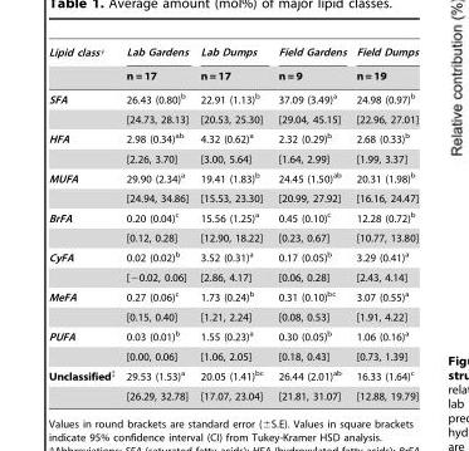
<table><thead><tr><td rowspan="2">Lipid class†</td><td rowspan="2">Lab Gardens n = 17</td><td rowspan="2">Lab Dumps n = 17</td><td rowspan="2">Field Gardens n = 9</td><td rowspan="2">Field Dumps n = 19</td></tr><tr></tr></thead><tbody><tr><td rowspan="2">SFA</td><td>26.43 (0.80)<sup>b</sup></td><td>22.91 (1.13)<sup>b</sup></td><td>37.09 (3.49)<sup>a</sup></td><td>24.98 (0.97)<sup>b</sup></td></tr><tr><td>[24.73, 28.13]</td><td>[20.53, 25.30]</td><td>[29.04, 45.15]</td><td>[22.96, 27.01]</td></tr><tr><td rowspan="2">HFA</td><td>2.98 (0.34)<sup>ab</sup></td><td>4.32 (0.62)<sup>a</sup></td><td>2.32 (0.29)<sup>b</sup></td><td>2.68 (0.33)<sup>b</sup></td></tr><tr><td>[2.26, 3.70]</td><td>[3.00, 5.64]</td><td>[1.64, 2.99]</td><td>[1.99, 3.37]</td></tr><tr><td rowspan="2">MUFA</td><td>29.90 (2.34)<sup>a</sup></td><td>19.41 (1.83)<sup>b</sup></td><td>24.45 (1.50)<sup>ab</sup></td><td>20.31 (1.98)<sup>b</sup></td></tr><tr><td>[24.94, 34.86]</td><td>[15.53, 23.30]</td><td>[20.99, 27.92]</td><td>[16.16, 24.47]</td></tr><tr><td rowspan="2">BrFA</td><td>0.20 (0.04)<sup>c</sup></td><td>15.56 (1.25)<sup>a</sup></td><td>0.45 (0.10)<sup>c</sup></td><td>12.28 (0.72)<sup>b</sup></td></tr><tr><td>[0.12, 0.28]</td><td>[12.90, 18.22]</td><td>[0.23, 0.67]</td><td>[10.77, 13.80]</td></tr><tr><td rowspan="2">CyFA</td><td>0.02 (0.02)<sup>b</sup></td><td>3.52 (0.31)<sup>a</sup></td><td>0.17 (0.05)<sup>b</sup></td><td>3.29 (0.41)<sup>a</sup></td></tr><tr><td>[−0.02, 0.06]</td><td>[2.86, 4.17]</td><td>[0.06, 0.28]</td><td>[2.43, 4.14]</td></tr><tr><td rowspan="2">MeFA</td><td>0.27 (0.06)<sup>c</sup></td><td>1.73 (0.24)<sup>b</sup></td><td>0.31 (0.10)<sup>bc</sup></td><td>3.07 (0.55)<sup>a</sup></td></tr><tr><td>[0.15, 0.40]</td><td>[1.21, 2.24]</td><td>[0.08, 0.53]</td><td>[1.91, 4.22]</td></tr><tr><td rowspan="2">PUFA</td><td>0.03 (0.01)<sup>b</sup></td><td>1.55 (0.23)<sup>a</sup></td><td>0.30 (0.05)<sup>b</sup></td><td>1.06 (0.16)<sup>a</sup></td></tr><tr><td>[0.00, 0.06]</td><td>[1.06, 2.05]</td><td>[0.18, 0.43]</td><td>[0.73, 1.39]</td></tr><tr><td rowspan="2">Unclassified‡</td><td>29.53 (1.53)<sup>a</sup></td><td>20.05 (1.41)<sup>bc</sup></td><td>26.44 (2.01)<sup>ab</sup></td><td>16.33 (1.64)<sup>c</sup></td></tr><tr><td>[26.29, 32.78]</td><td>[17.07, 23.04]</td><td>[21.81, 31.07]</td><td>[12.88, 19.79]</td></tr></tbody></table>